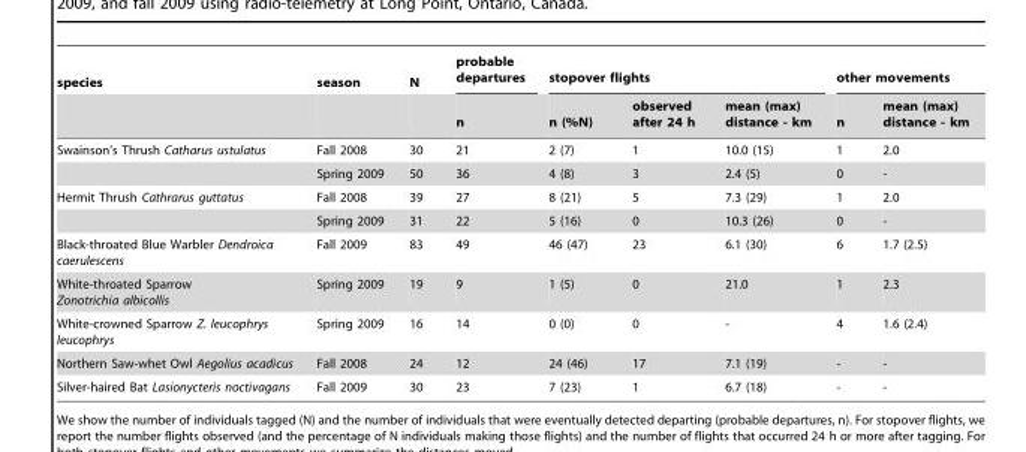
<table><thead><tr><td rowspan="2">species</td><td rowspan="2">season</td><td rowspan="2">N</td><td rowspan="2">probable departures n</td><td colspan="3">stopover flights</td><td colspan="2">other movements</td></tr><tr><td>n (%N)</td><td>observed after 24 h</td><td>mean (max) distance - km</td><td>n</td><td>mean (max) distance - km</td></tr></thead><tbody><tr><td rowspan="2">Swainson’s Thrush Catharus ustulatus</td><td>Fall 2008</td><td>30</td><td>21</td><td>2 (7)</td><td>1</td><td>10.0 (15)</td><td>1</td><td>2.0</td></tr><tr><td>Spring 2009</td><td>50</td><td>36</td><td>4 (8)</td><td>3</td><td>2.4 (5)</td><td>0</td><td>-</td></tr><tr><td rowspan="2">Hermit Thrush Cathrarus guttatus</td><td>Fall 2008</td><td>39</td><td>27</td><td>8 (21)</td><td>5</td><td>7.3 (29)</td><td>1</td><td>2.0</td></tr><tr><td>Spring 2009</td><td>31</td><td>22</td><td>5 (16)</td><td>0</td><td>10.3 (26)</td><td>0</td><td>-</td></tr><tr><td>Black-throated Blue Warbler Dendroica caerulescens</td><td>Fall 2009</td><td>83</td><td>49</td><td>46 (47)</td><td>23</td><td>6.1 (30)</td><td>6</td><td>1.7 (2.5)</td></tr><tr><td>White-throated Sparrow Zonotrichia albicollis</td><td>Spring 2009</td><td>19</td><td>9</td><td>1 (5)</td><td>0</td><td>21.0</td><td>1</td><td>2.3</td></tr><tr><td>White-crowned Sparrow Z. leucophrys leucophrys</td><td>Spring 2009</td><td>16</td><td>14</td><td>0 (0)</td><td>0</td><td>-</td><td>4</td><td>1.6 (2.4)</td></tr><tr><td>Northern Saw-whet Owl Aegolius acadicus</td><td>Fall 2008</td><td>24</td><td>12</td><td>24 (46)</td><td>17</td><td>7.1 (19)</td><td>-</td><td>-</td></tr><tr><td>Silver-haired Bat Lasionycteris noctivagans</td><td>Fall 2009</td><td>30</td><td>23</td><td>7 (23)</td><td>1</td><td>6.7 (18)</td><td>-</td><td>-</td></tr></tbody></table>